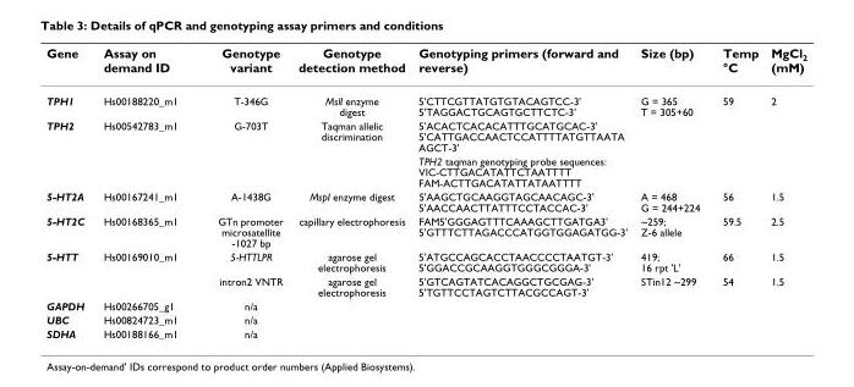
<table><thead><tr><td>Gene</td><td>Assay on demand ID</td><td>Genotype variant</td><td>Genotype detection method</td><td>Genotyping primers (forward and reverse)</td><td>Size (bp)</td><td>Temp °C</td><td>MgCl<sub>2</sub> (mM)</td></tr></thead><tbody><tr><td>TPH1</td><td>Hs00188220_m1</td><td>T-346G</td><td>MslI enzyme digest</td><td>5&#x27;CTTCGTTATGTGTACAGTCC-3&#x27; 5&#x27;TAGGACTGCAGTGCTTCTC-3&#x27;</td><td>G = 365 T = 305+60</td><td>59</td><td>2</td></tr><tr><td rowspan="2">TPH2</td><td>Hs00542783_m1</td><td>G-703T</td><td>Taqman allelic discrimination</td><td>5&#x27;ACACTCACACATTTGCATGCAC-3&#x27; 5&#x27;CATTGACCAACTCCATTTTATGTTAATA AGCT-3&#x27;</td><td></td><td></td><td></td></tr><tr><td></td><td></td><td></td><td>TPH2 taqman genotyping probe sequences: VIC-CTTGACATATTCTAATTTT FAM-ACTTGACATATTATAATTTT</td><td></td><td></td><td></td></tr><tr><td>5-HT2A</td><td>Hs00167241_m1</td><td>A-1438G</td><td>MspI enzyme digest</td><td>5&#x27;AAGCTGCAAGGTAGCAACAGC-3&#x27; 5&#x27;AACCAACTTATTTCCTACCAC-3&#x27;</td><td>A = 468 G = 244+224</td><td>56</td><td>1.5</td></tr><tr><td>5-HT2C</td><td>Hs00168365_m1</td><td>GTn promoter microsatellite -1027 bp</td><td>capillary electrophoresis</td><td>FAM5&#x27;GGGAGTTTCAAAGCTTGATGA3&#x27; 5&#x27;GTTTCTTAGACCCATGGTGGAGATGG-3&#x27;</td><td>~259; Z-6 allele</td><td>59.5</td><td>2.5</td></tr><tr><td rowspan="2">5-HTT</td><td>Hs00169010_m1</td><td>5-HTTLPR</td><td>agarose gel electrophoresis</td><td>5&#x27;ATGCCAGCACCTAACCCCTAATGT-3&#x27; 5&#x27;GGACCGCAAGGTGGGCGGGA-3&#x27;</td><td>419; 16 rpt &#x27;L&#x27;</td><td>66</td><td>1.5</td></tr><tr><td></td><td>intron2 VNTR</td><td>agarose gel electrophoresis</td><td>5&#x27;GTCAGTATCACAGGCTGCGAG-3&#x27; 5&#x27;TGTTCCTAGTCTTACGCCAGT-3&#x27;</td><td>STin12 ~299</td><td>54</td><td>1.5</td></tr><tr><td>GAPDH</td><td>Hs00266705_g1</td><td>n/a</td><td></td><td></td><td></td><td></td><td></td></tr><tr><td>UBC</td><td>Hs00824723_m1</td><td>n/a</td><td></td><td></td><td></td><td></td><td></td></tr><tr><td>SDHA</td><td>Hs00188166_m1</td><td>n/a</td><td></td><td></td><td></td><td></td><td></td></tr></tbody></table>